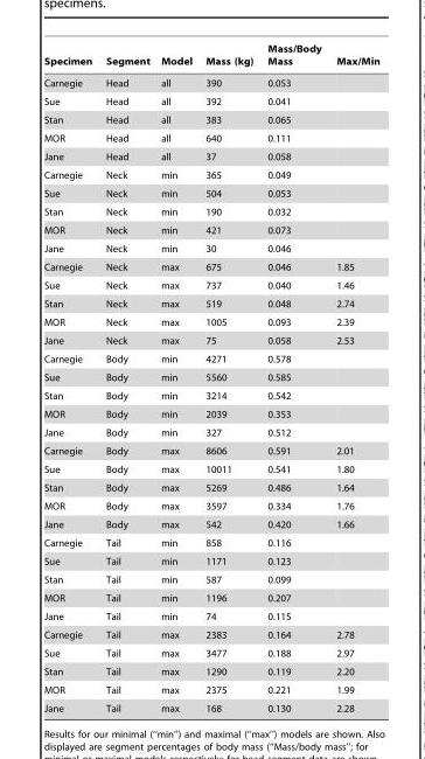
<table><thead><tr><td>Specimen</td><td>Segment</td><td>Model</td><td>Mass (kg)</td><td>Mass/Body Mass</td><td>Max/Min</td></tr></thead><tbody><tr><td>Carnegie</td><td>Head</td><td>all</td><td>390</td><td>0.053</td><td></td></tr><tr><td>Sue</td><td>Head</td><td>all</td><td>392</td><td>0.041</td><td></td></tr><tr><td>Stan</td><td>Head</td><td>all</td><td>383</td><td>0.065</td><td></td></tr><tr><td>MOR</td><td>Head</td><td>all</td><td>640</td><td>0.111</td><td></td></tr><tr><td>Jane</td><td>Head</td><td>all</td><td>37</td><td>0.058</td><td></td></tr><tr><td>Carnegie</td><td>Neck</td><td>min</td><td>365</td><td>0.049</td><td></td></tr><tr><td>Sue</td><td>Neck</td><td>min</td><td>504</td><td>0.053</td><td></td></tr><tr><td>Stan</td><td>Neck</td><td>min</td><td>190</td><td>0.032</td><td></td></tr><tr><td>MOR</td><td>Neck</td><td>min</td><td>421</td><td>0.073</td><td></td></tr><tr><td>Jane</td><td>Neck</td><td>min</td><td>30</td><td>0.046</td><td></td></tr><tr><td>Carnegie</td><td>Neck</td><td>max</td><td>675</td><td>0.046</td><td>1.85</td></tr><tr><td>Sue</td><td>Neck</td><td>max</td><td>737</td><td>0.040</td><td>1.46</td></tr><tr><td>Stan</td><td>Neck</td><td>max</td><td>519</td><td>0.048</td><td>2.74</td></tr><tr><td>MOR</td><td>Neck</td><td>max</td><td>1005</td><td>0.093</td><td>2.39</td></tr><tr><td>Jane</td><td>Neck</td><td>max</td><td>75</td><td>0.058</td><td>2.53</td></tr><tr><td>Carnegie</td><td>Body</td><td>min</td><td>4271</td><td>0.578</td><td></td></tr><tr><td>Sue</td><td>Body</td><td>min</td><td>5560</td><td>0.585</td><td></td></tr><tr><td>Stan</td><td>Body</td><td>min</td><td>3214</td><td>0.542</td><td></td></tr><tr><td>MOR</td><td>Body</td><td>min</td><td>2039</td><td>0.353</td><td></td></tr><tr><td>Jane</td><td>Body</td><td>min</td><td>327</td><td>0.512</td><td></td></tr><tr><td>Carnegie</td><td>Body</td><td>max</td><td>8606</td><td>0.591</td><td>2.01</td></tr><tr><td>Sue</td><td>Body</td><td>max</td><td>10011</td><td>0.541</td><td>1.80</td></tr><tr><td>Stan</td><td>Body</td><td>max</td><td>5269</td><td>0.486</td><td>1.64</td></tr><tr><td>MOR</td><td>Body</td><td>max</td><td>3597</td><td>0.334</td><td>1.76</td></tr><tr><td>Jane</td><td>Body</td><td>max</td><td>542</td><td>0.420</td><td>1.66</td></tr><tr><td>Carnegie</td><td>Tail</td><td>min</td><td>858</td><td>0.116</td><td></td></tr><tr><td>Sue</td><td>Tail</td><td>min</td><td>1171</td><td>0.123</td><td></td></tr><tr><td>Stan</td><td>Tail</td><td>min</td><td>587</td><td>0.099</td><td></td></tr><tr><td>MOR</td><td>Tail</td><td>min</td><td>1196</td><td>0.207</td><td></td></tr><tr><td>Jane</td><td>Tail</td><td>min</td><td>74</td><td>0.115</td><td></td></tr><tr><td>Carnegie</td><td>Tail</td><td>max</td><td>2383</td><td>0.164</td><td>2.78</td></tr><tr><td>Sue</td><td>Tail</td><td>max</td><td>3477</td><td>0.188</td><td>2.97</td></tr><tr><td>Stan</td><td>Tail</td><td>max</td><td>1290</td><td>0.119</td><td>2.20</td></tr><tr><td>MOR</td><td>Tail</td><td>max</td><td>2375</td><td>0.221</td><td>1.99</td></tr><tr><td>Jane</td><td>Tail</td><td>max</td><td>168</td><td>0.130</td><td>2.28</td></tr></tbody></table>